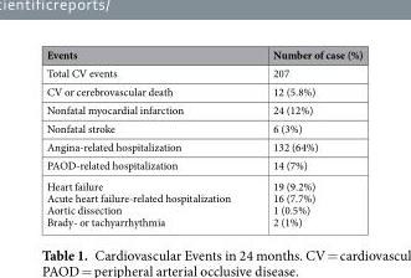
<table><thead><tr><td>Events</td><td>Number of case (%)</td></tr></thead><tbody><tr><td>Total CV events</td><td>207</td></tr><tr><td>CV or cerebrovascular death</td><td>12 (5.8%)</td></tr><tr><td>Nonfatal myocardial infarction</td><td>24 (12%)</td></tr><tr><td>Nonfatal stroke</td><td>6 (3%)</td></tr><tr><td>Angina-related hospitalization</td><td>132 (64%)</td></tr><tr><td>PAOD-related hospitalization</td><td>14 (7%)</td></tr><tr><td>Heart failure Acute heart failure-related hospitalization Aortic dissection Brady- or tachyarrhythmia</td><td>19 (9.2%) 16 (7.7%) 1 (0.5%) 2 (1%)</td></tr></tbody></table>